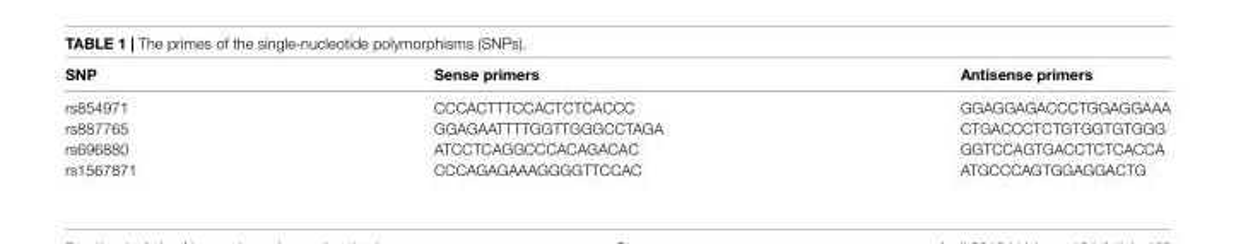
<table><thead><tr><td>SNP</td><td>Sense primers</td><td>Antisense primers</td></tr></thead><tbody><tr><td>rs854971</td><td>CCCACTTTCCACTCTCACCC</td><td>GGAGGAGACCCTGGAGGAAA</td></tr><tr><td>rs887765</td><td>GGAGAATTTTGGTTGGGCCTAGA</td><td>CTGACCCTCTGTGGTGTGGG</td></tr><tr><td>rs696880</td><td>ATCCTCAGGCCCACAGACAC</td><td>GGTCCAGTGACCTCTCACCA</td></tr><tr><td>rs1567871</td><td>CCCAGAGAAAGGGGTTCCAC</td><td>ATGCCCAGTGGAGGACTG</td></tr></tbody></table>